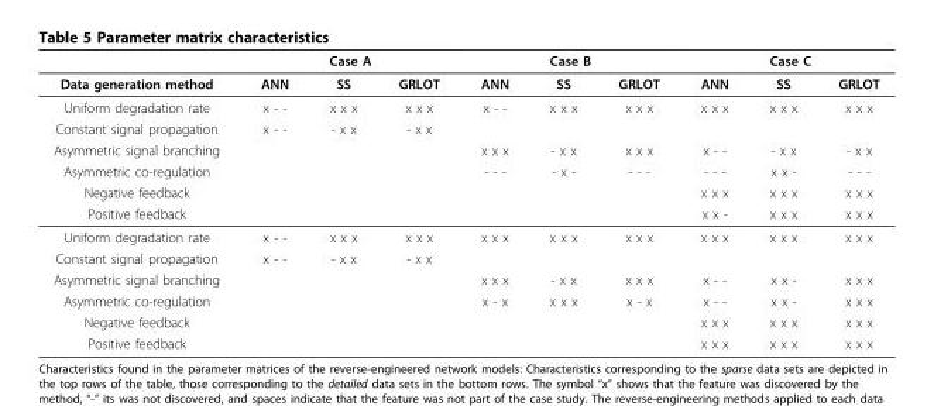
<table><thead><tr><td rowspan="2">Data generation method</td><td colspan="3">Case A</td><td colspan="3">Case B</td><td colspan="3">Case C</td></tr><tr><td>ANN</td><td>SS</td><td>GRLOT</td><td>ANN</td><td>SS</td><td>GRLOT</td><td>ANN</td><td>SS</td><td>GRLOT</td></tr></thead><tbody><tr><td>Uniform degradation rate</td><td>x - -</td><td>x x x</td><td>x x x</td><td>x - -</td><td>x x x</td><td>x x x</td><td>x x x</td><td>x x x</td><td>x x x</td></tr><tr><td>Constant signal propagation</td><td>x - -</td><td>- x x</td><td>- x x</td><td></td><td></td><td></td><td></td><td></td><td></td></tr><tr><td>Asymmetric signal branching</td><td></td><td></td><td></td><td>x x x</td><td>- x x</td><td>x x x</td><td>x - -</td><td>- x x</td><td>- x x</td></tr><tr><td>Asymmetric co-regulation</td><td></td><td></td><td></td><td>- - -</td><td>- x -</td><td>- - -</td><td>- - -</td><td>x x -</td><td>- - -</td></tr><tr><td>Negative feedback</td><td></td><td></td><td></td><td></td><td></td><td></td><td>x x x</td><td>x x x</td><td>x x x</td></tr><tr><td>Positive feedback</td><td></td><td></td><td></td><td></td><td></td><td></td><td>x x -</td><td>x x x</td><td>x x x</td></tr><tr><td>Uniform degradation rate</td><td>x - -</td><td>x x x</td><td>x x x</td><td>x x x</td><td>x x x</td><td>x x x</td><td>x x x</td><td>x x x</td><td>x x x</td></tr><tr><td>Constant signal propagation</td><td>x - -</td><td>- x x</td><td>- x x</td><td></td><td></td><td></td><td></td><td></td><td></td></tr><tr><td>Asymmetric signal branching</td><td></td><td></td><td></td><td>x x x</td><td>- x x</td><td>x x x</td><td>x - -</td><td>x x -</td><td>x x x</td></tr><tr><td>Asymmetric co-regulation</td><td></td><td></td><td></td><td>x - x</td><td>x x x</td><td>x - x</td><td>x - -</td><td>x x -</td><td>x x x</td></tr><tr><td>Negative feedback</td><td></td><td></td><td></td><td></td><td></td><td></td><td>x x x</td><td>x x x</td><td>x x x</td></tr><tr><td>Positive feedback</td><td></td><td></td><td></td><td></td><td></td><td></td><td>x x x</td><td>x x x</td><td>x x x</td></tr></tbody></table>